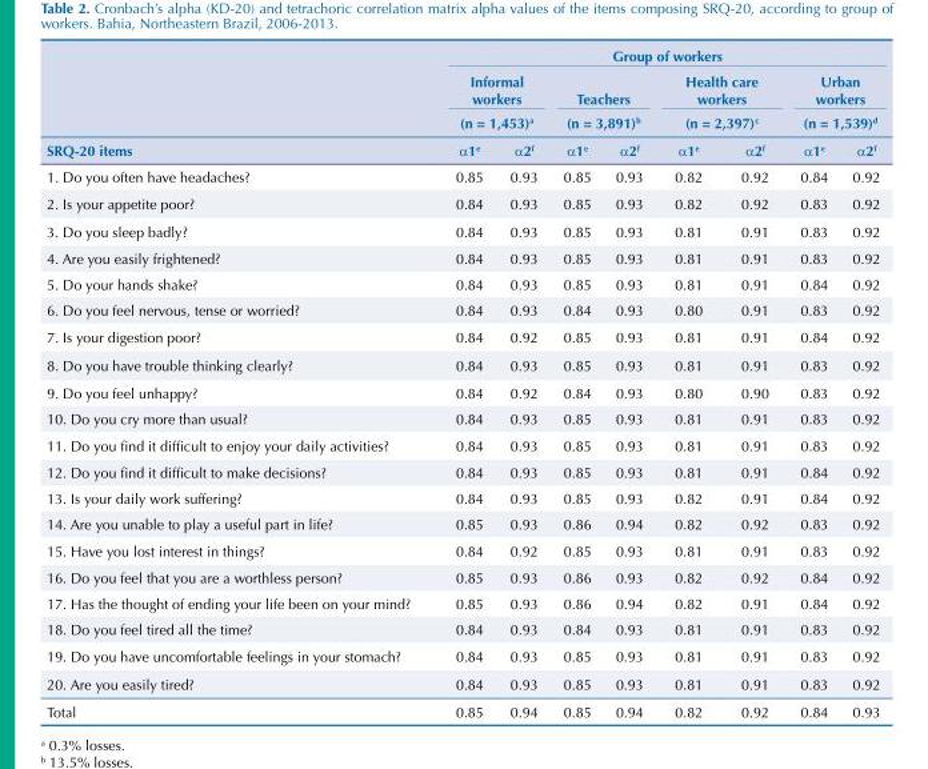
<table><thead><tr><td rowspan="4">SRQ-20 items</td><td colspan="8">Group of workers</td></tr><tr><td rowspan="2" colspan="2">Informal workers (n = 1,453)a</td><td rowspan="2" colspan="2">Teachers (n = 3,891)b</td><td rowspan="2" colspan="2">Health care workers (n = 2,397)c</td><td rowspan="2" colspan="2">Urban workers (n = 1,539)d</td></tr><tr></tr><tr><td>α1<sup>e</sup></td><td>α2<sup>f</sup></td><td>α1<sup>e</sup></td><td>α2<sup>f</sup></td><td>α1<sup>e</sup></td><td>α2<sup>f</sup></td><td>α1<sup>e</sup></td><td>α2<sup>f</sup></td></tr></thead><tbody><tr><td>1. Do you often have headaches?</td><td>0.85</td><td>0.93</td><td>0.85</td><td>0.93</td><td>0.82</td><td>0.92</td><td>0.84</td><td>0.92</td></tr><tr><td>2. Is your appetite poor?</td><td>0.84</td><td>0.93</td><td>0.85</td><td>0.93</td><td>0.82</td><td>0.92</td><td>0.83</td><td>0.92</td></tr><tr><td>3. Do you sleep badly?</td><td>0.84</td><td>0.93</td><td>0.85</td><td>0.93</td><td>0.81</td><td>0.91</td><td>0.83</td><td>0.92</td></tr><tr><td>4. Are you easily frightened?</td><td>0.84</td><td>0.93</td><td>0.85</td><td>0.93</td><td>0.81</td><td>0.91</td><td>0.83</td><td>0.92</td></tr><tr><td>5. Do your hands shake?</td><td>0.84</td><td>0.93</td><td>0.85</td><td>0.93</td><td>0.81</td><td>0.91</td><td>0.84</td><td>0.92</td></tr><tr><td>6. Do you feel nervous, tense or worried?</td><td>0.84</td><td>0.93</td><td>0.84</td><td>0.93</td><td>0.80</td><td>0.91</td><td>0.83</td><td>0.92</td></tr><tr><td>7. Is your digestion poor?</td><td>0.84</td><td>0.92</td><td>0.85</td><td>0.93</td><td>0.81</td><td>0.91</td><td>0.84</td><td>0.92</td></tr><tr><td>8. Do you have trouble thinking clearly?</td><td>0.84</td><td>0.93</td><td>0.85</td><td>0.93</td><td>0.81</td><td>0.91</td><td>0.83</td><td>0.92</td></tr><tr><td>9. Do you feel unhappy?</td><td>0.84</td><td>0.92</td><td>0.84</td><td>0.93</td><td>0.80</td><td>0.90</td><td>0.83</td><td>0.92</td></tr><tr><td>10. Do you cry more than usual?</td><td>0.84</td><td>0.93</td><td>0.85</td><td>0.93</td><td>0.81</td><td>0.91</td><td>0.83</td><td>0.92</td></tr><tr><td>11. Do you find it difficult to enjoy your daily activities?</td><td>0.84</td><td>0.93</td><td>0.85</td><td>0.93</td><td>0.81</td><td>0.91</td><td>0.83</td><td>0.92</td></tr><tr><td>12. Do you find it difficult to make decisions?</td><td>0.84</td><td>0.93</td><td>0.85</td><td>0.93</td><td>0.81</td><td>0.91</td><td>0.84</td><td>0.92</td></tr><tr><td>13. Is your daily work suffering?</td><td>0.84</td><td>0.93</td><td>0.85</td><td>0.93</td><td>0.82</td><td>0.91</td><td>0.84</td><td>0.92</td></tr><tr><td>14. Are you unable to play a useful part in life?</td><td>0.85</td><td>0.93</td><td>0.86</td><td>0.94</td><td>0.82</td><td>0.92</td><td>0.83</td><td>0.92</td></tr><tr><td>15. Have you lost interest in things?</td><td>0.84</td><td>0.92</td><td>0.85</td><td>0.93</td><td>0.81</td><td>0.91</td><td>0.83</td><td>0.92</td></tr><tr><td>16. Do you feel that you are a worthless person?</td><td>0.85</td><td>0.93</td><td>0.86</td><td>0.93</td><td>0.82</td><td>0.92</td><td>0.84</td><td>0.92</td></tr><tr><td>17. Has the thought of ending your life been on your mind?</td><td>0.85</td><td>0.93</td><td>0.86</td><td>0.94</td><td>0.82</td><td>0.91</td><td>0.84</td><td>0.92</td></tr><tr><td>18. Do you feel tired all the time?</td><td>0.84</td><td>0.93</td><td>0.84</td><td>0.93</td><td>0.81</td><td>0.91</td><td>0.83</td><td>0.92</td></tr><tr><td>19. Do you have uncomfortable feelings in your stomach?</td><td>0.84</td><td>0.93</td><td>0.85</td><td>0.93</td><td>0.81</td><td>0.91</td><td>0.83</td><td>0.92</td></tr><tr><td>20. Are you easily tired?</td><td>0.84</td><td>0.93</td><td>0.85</td><td>0.93</td><td>0.81</td><td>0.91</td><td>0.83</td><td>0.92</td></tr><tr><td>Total</td><td>0.85</td><td>0.94</td><td>0.85</td><td>0.94</td><td>0.82</td><td>0.92</td><td>0.84</td><td>0.93</td></tr></tbody></table>